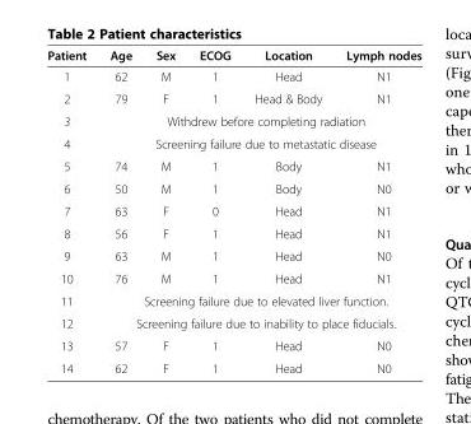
<table><thead><tr><td>Patient</td><td>Age</td><td>Sex</td><td>ECOG</td><td>Location</td><td>Lymph nodes</td></tr></thead><tbody><tr><td>1</td><td>62</td><td>M</td><td>1</td><td>Head</td><td>N1</td></tr><tr><td>2</td><td>79</td><td>F</td><td>1</td><td>Head &amp; Body</td><td>N1</td></tr><tr><td>3</td><td colspan="5">Withdrew before completing radiation</td></tr><tr><td>4</td><td colspan="5">Screening failure due to metastatic disease</td></tr><tr><td>5</td><td>74</td><td>M</td><td>1</td><td>Body</td><td>N1</td></tr><tr><td>6</td><td>50</td><td>M</td><td>1</td><td>Body</td><td>N0</td></tr><tr><td>7</td><td>63</td><td>F</td><td>0</td><td>Head</td><td>N1</td></tr><tr><td>8</td><td>56</td><td>F</td><td>1</td><td>Head</td><td>N1</td></tr><tr><td>9</td><td>63</td><td>M</td><td>1</td><td>Head</td><td>N0</td></tr><tr><td>10</td><td>76</td><td>M</td><td>1</td><td>Head</td><td>N1</td></tr><tr><td>11</td><td colspan="5">Screening failure due to elevated liver function.</td></tr><tr><td>12</td><td colspan="5">Screening failure due to inability to place fiducials.</td></tr><tr><td>13</td><td>57</td><td>F</td><td>1</td><td>Head</td><td>N0</td></tr><tr><td>14</td><td>62</td><td>F</td><td>1</td><td>Head</td><td>N0</td></tr></tbody></table>